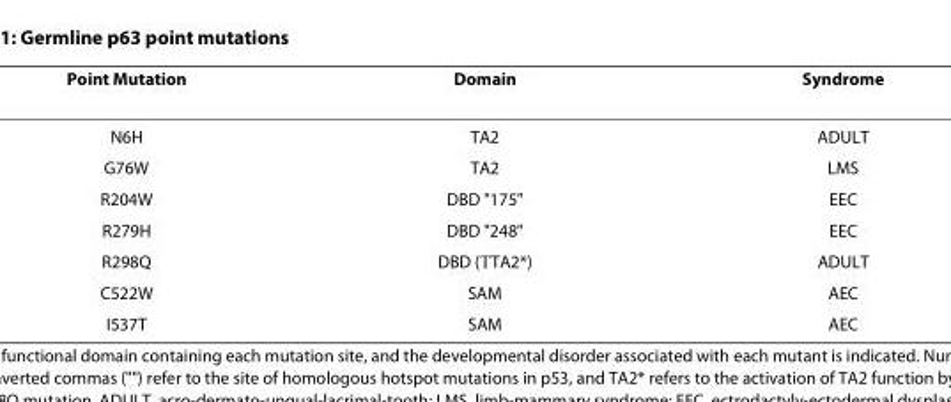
<table><thead><tr><td>Point Mutation</td><td>Domain</td><td>Syndrome</td></tr></thead><tbody><tr><td>N6H</td><td>TA2</td><td>ADULT</td></tr><tr><td>G76W</td><td>TA2</td><td>LMS</td></tr><tr><td>R204W</td><td>DBD &quot;175&quot;</td><td>EEC</td></tr><tr><td>R279H</td><td>DBD &quot;248&quot;</td><td>EEC</td></tr><tr><td>R298Q</td><td>DBD (→TA2*)</td><td>ADULT</td></tr><tr><td>C522W</td><td>SAM</td><td>AEC</td></tr><tr><td>I537T</td><td>SAM</td><td>AEC</td></tr></tbody></table>